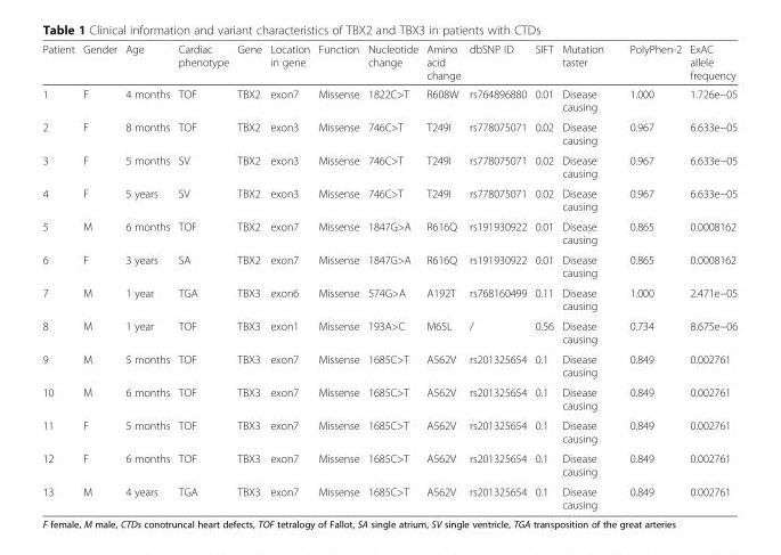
<table><thead><tr><td>Patient</td><td>Gender</td><td>Age</td><td>Cardiac phenotype</td><td>Gene</td><td>Location in gene</td><td>Function</td><td>Nucleotide change</td><td>Amino acid change</td><td>dbSNP ID</td><td>SIFT</td><td>Mutation taster</td><td>PolyPhen-2</td><td>ExAC allele frequency</td></tr></thead><tbody><tr><td>1</td><td>F</td><td>4 months</td><td>TOF</td><td>TBX2</td><td>exon7</td><td>Missense</td><td>1822C&gt;T</td><td>R608W</td><td>rs764896880</td><td>0.01</td><td>Disease causing</td><td>1.000</td><td>1.726e−05</td></tr><tr><td>2</td><td>F</td><td>8 months</td><td>TOF</td><td>TBX2</td><td>exon3</td><td>Missense</td><td>746C&gt;T</td><td>T249I</td><td>rs778075071</td><td>0.02</td><td>Disease causing</td><td>0.967</td><td>6.633e−05</td></tr><tr><td>3</td><td>F</td><td>5 months</td><td>SV</td><td>TBX2</td><td>exon3</td><td>Missense</td><td>746C&gt;T</td><td>T249I</td><td>rs778075071</td><td>0.02</td><td>Disease causing</td><td>0.967</td><td>6.633e−05</td></tr><tr><td>4</td><td>F</td><td>5 years</td><td>SV</td><td>TBX2</td><td>exon3</td><td>Missense</td><td>746C&gt;T</td><td>T249I</td><td>rs778075071</td><td>0.02</td><td>Disease causing</td><td>0.967</td><td>6.633e−05</td></tr><tr><td>5</td><td>M</td><td>6 months</td><td>TOF</td><td>TBX2</td><td>exon7</td><td>Missense</td><td>1847G&gt;A</td><td>R616Q</td><td>rs191930922</td><td>0.01</td><td>Disease causing</td><td>0.865</td><td>0.0008162</td></tr><tr><td>6</td><td>F</td><td>3 years</td><td>SA</td><td>TBX2</td><td>exon7</td><td>Missense</td><td>1847G&gt;A</td><td>R616Q</td><td>rs191930922</td><td>0.01</td><td>Disease causing</td><td>0.865</td><td>0.0008162</td></tr><tr><td>7</td><td>M</td><td>1 year</td><td>TGA</td><td>TBX3</td><td>exon6</td><td>Missense</td><td>574G&gt;A</td><td>A192T</td><td>rs768160499</td><td>0.11</td><td>Disease causing</td><td>1.000</td><td>2.471e−05</td></tr><tr><td>8</td><td>M</td><td>1 year</td><td>TOF</td><td>TBX3</td><td>exon1</td><td>Missense</td><td>193A&gt;C</td><td>M65L</td><td>/</td><td>0.56</td><td>Disease causing</td><td>0.734</td><td>8.675e−06</td></tr><tr><td>9</td><td>M</td><td>5 months</td><td>TOF</td><td>TBX3</td><td>exon7</td><td>Missense</td><td>1685C&gt;T</td><td>A562V</td><td>rs201325654</td><td>0.1</td><td>Disease causing</td><td>0.849</td><td>0.002761</td></tr><tr><td>10</td><td>M</td><td>6 months</td><td>TOF</td><td>TBX3</td><td>exon7</td><td>Missense</td><td>1685C&gt;T</td><td>A562V</td><td>rs201325654</td><td>0.1</td><td>Disease causing</td><td>0.849</td><td>0.002761</td></tr><tr><td>11</td><td>F</td><td>5 months</td><td>TOF</td><td>TBX3</td><td>exon7</td><td>Missense</td><td>1685C&gt;T</td><td>A562V</td><td>rs201325654</td><td>0.1</td><td>Disease causing</td><td>0.849</td><td>0.002761</td></tr><tr><td>12</td><td>F</td><td>6 months</td><td>TOF</td><td>TBX3</td><td>exon7</td><td>Missense</td><td>1685C&gt;T</td><td>A562V</td><td>rs201325654</td><td>0.1</td><td>Disease causing</td><td>0.849</td><td>0.002761</td></tr><tr><td>13</td><td>M</td><td>4 years</td><td>TGA</td><td>TBX3</td><td>exon7</td><td>Missense</td><td>1685C&gt;T</td><td>A562V</td><td>rs201325654</td><td>0.1</td><td>Disease causing</td><td>0.849</td><td>0.002761</td></tr></tbody></table>